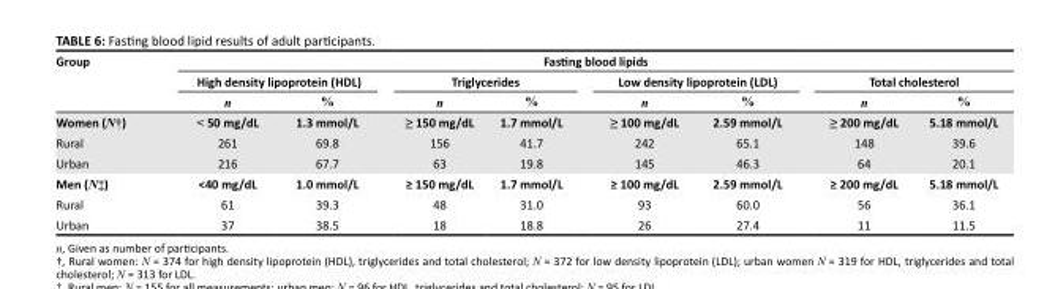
<table><thead><tr><td rowspan="3">Group</td><td colspan="8">Fasting blood lipids</td></tr><tr><td colspan="2">High density lipoprotein (HDL)</td><td colspan="2">Triglycerides</td><td colspan="2">Low density lipoprotein (LDL)</td><td colspan="2">Total cholesterol</td></tr><tr><td>n</td><td>%</td><td>n</td><td>%</td><td>n</td><td>%</td><td>n</td><td>%</td></tr></thead><tbody><tr><td>Women (N†)</td><td>&lt; 50 mg/dL</td><td>1.3 mmol/L</td><td>≥ 150 mg/dL</td><td>1.7 mmol/L</td><td>≥ 100 mg/dL</td><td>2.59 mmol/L</td><td>≥ 200 mg/dL</td><td>5.18 mmol/L</td></tr><tr><td>Rural</td><td>261</td><td>69.8</td><td>156</td><td>41.7</td><td>242</td><td>65.1</td><td>148</td><td>39.6</td></tr><tr><td>Urban</td><td>216</td><td>67.7</td><td>63</td><td>19.8</td><td>145</td><td>46.3</td><td>64</td><td>20.1</td></tr><tr><td>Men (N‡)</td><td>&lt;40 mg/dL</td><td>1.0 mmol/L</td><td>≥ 150 mg/dL</td><td>1.7 mmol/L</td><td>≥ 100 mg/dL</td><td>2.59 mmol/L</td><td>≥ 200 mg/dL</td><td>5.18 mmol/L</td></tr><tr><td>Rural</td><td>61</td><td>39.3</td><td>48</td><td>31.0</td><td>93</td><td>60.0</td><td>56</td><td>36.1</td></tr><tr><td>Urban</td><td>37</td><td>38.5</td><td>18</td><td>18.8</td><td>26</td><td>27.4</td><td>11</td><td>11.5</td></tr></tbody></table>